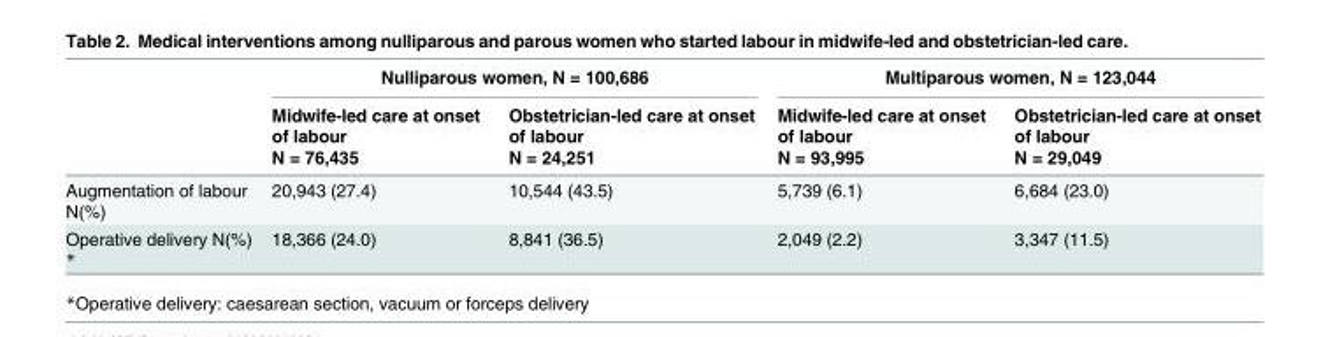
<table><thead><tr><td rowspan="3"></td><td colspan="2">Nulliparous women, N = 100,686</td><td colspan="2">Multiparous women, N = 123,044</td></tr><tr><td rowspan="2">Midwife-led care at onset of labour N = 76,435</td><td rowspan="2">Obstetrician-led care at onset of labour N = 24,251</td><td rowspan="2">Midwife-led care at onset of labour N = 93,995</td><td rowspan="2">Obstetrician-led care at onset of labour N = 29,049</td></tr><tr></tr></thead><tbody><tr><td>Augmentation of labour N(%)</td><td>20,943 (27.4)</td><td>10,544 (43.5)</td><td>5,739 (6.1)</td><td>6,684 (23.0)</td></tr><tr><td>Operative delivery N(%) *</td><td>18,366 (24.0)</td><td>8,841 (36.5)</td><td>2,049 (2.2)</td><td>3,347 (11.5)</td></tr></tbody></table>